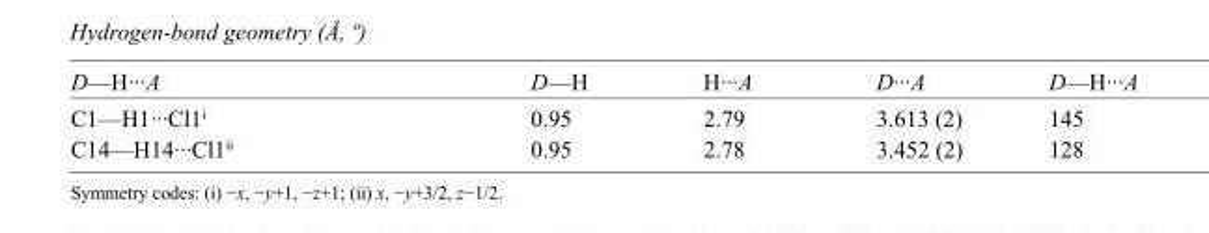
<table><tbody><tr><td>D—H···A</td><td>D—H</td><td>H···A</td><td>D···A</td><td>D—H···A</td></tr><tr><td>C1—H1···Cl1<sup>i</sup></td><td>0.95</td><td>2.79</td><td>3.613 (2)</td><td>145</td></tr><tr><td>C14—H14···Cl1<sup>ii</sup></td><td>0.95</td><td>2.78</td><td>3.452 (2)</td><td>128</td></tr></tbody></table>